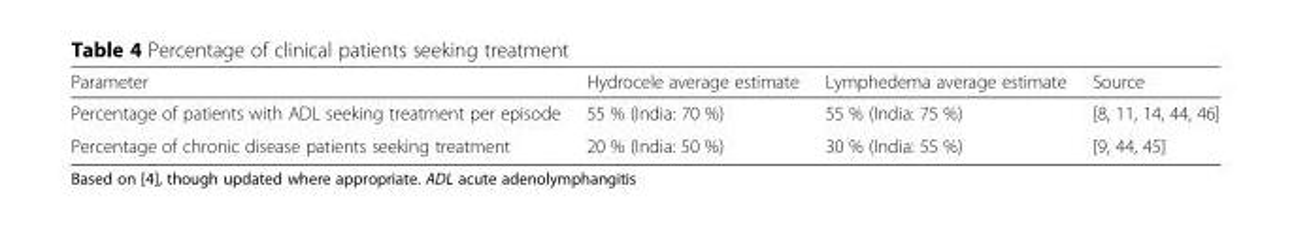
<table><thead><tr><td>Parameter</td><td>Hydrocele average estimate</td><td>Lymphedema average estimate</td><td>Source</td></tr></thead><tbody><tr><td>Percentage of patients with ADL seeking treatment per episode</td><td>55 % (India: 70 %)</td><td>55 % (India: 75 %)</td><td>[8, 11, 14, 44, 46]</td></tr><tr><td>Percentage of chronic disease patients seeking treatment</td><td>20 % (India: 50 %)</td><td>30 % (India: 55 %)</td><td>[9, 44, 45]</td></tr></tbody></table>